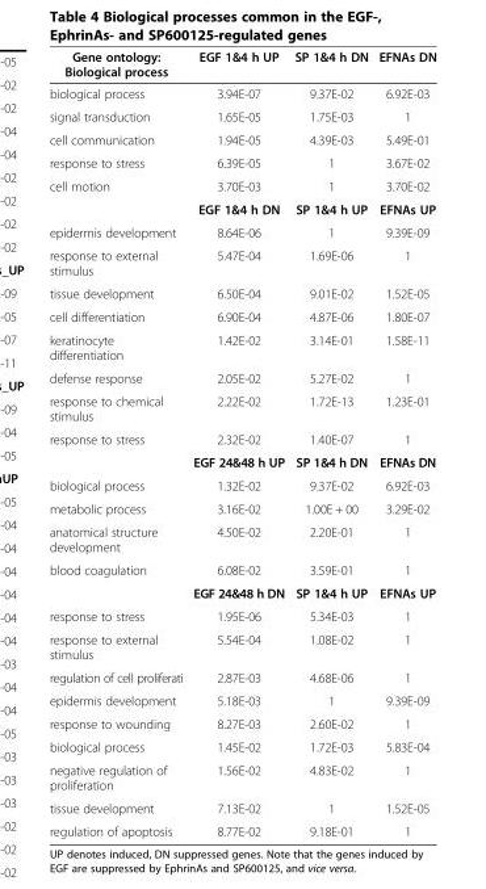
<table><thead><tr><td>Gene ontology: Biological process</td><td>EGF 1&amp;4 h UP</td><td>SP 1&amp;4 h DN</td><td>EFNAs DN</td></tr></thead><tbody><tr><td>biological process</td><td>3.94E-07</td><td>9.37E-02</td><td>6.92E-03</td></tr><tr><td>signal transduction</td><td>1.65E-05</td><td>1.75E-03</td><td>1</td></tr><tr><td>cell communication</td><td>1.94E-05</td><td>4.39E-03</td><td>5.49E-01</td></tr><tr><td>response to stress</td><td>6.39E-05</td><td>1</td><td>3.67E-02</td></tr><tr><td rowspan="2">cell motion</td><td>3.70E-03</td><td>1</td><td>3.70E-02</td></tr><tr><td>EGF 1&amp;4 h DN</td><td>SP 1&amp;4 h UP</td><td>EFNAs UP</td></tr><tr><td>epidermis development</td><td>8.64E-06</td><td>1</td><td>9.39E-09</td></tr><tr><td>response to external stimulus</td><td>5.47E-04</td><td>1.69E-06</td><td>1</td></tr><tr><td>tissue development</td><td>6.50E-04</td><td>9.01E-02</td><td>1.52E-05</td></tr><tr><td>cell differentiation</td><td>6.90E-04</td><td>4.87E-06</td><td>1.80E-07</td></tr><tr><td>keratinocyte differentiation</td><td>1.42E-02</td><td>3.14E-01</td><td>1.58E-11</td></tr><tr><td>defense response</td><td>2.05E-02</td><td>5.27E-02</td><td>1</td></tr><tr><td>response to chemical stimulus</td><td>2.22E-02</td><td>1.72E-13</td><td>1.23E-01</td></tr><tr><td rowspan="2">response to stress</td><td>2.32E-02</td><td>1.40E-07</td><td>1</td></tr><tr><td>EGF 24&amp;48 h UP</td><td>SP 1&amp;4 h DN</td><td>EFNAs DN</td></tr><tr><td>biological process</td><td>1.32E-02</td><td>9.37E-02</td><td>6.92E-03</td></tr><tr><td>metabolic process</td><td>3.16E-02</td><td>1.00E + 00</td><td>3.29E-02</td></tr><tr><td>anatomical structure development</td><td>4.50E-02</td><td>2.20E-01</td><td>1</td></tr><tr><td rowspan="2">blood coagulation</td><td>6.08E-02</td><td>3.59E-01</td><td>1</td></tr><tr><td>EGF 24&amp;48 h DN</td><td>SP 1&amp;4 h UP</td><td>EFNAs UP</td></tr><tr><td>response to stress</td><td>1.95E-06</td><td>5.34E-03</td><td>1</td></tr><tr><td>response to external stimulus</td><td>5.54E-04</td><td>1.08E-02</td><td>1</td></tr><tr><td>regulation of cell proliferati</td><td>2.87E-03</td><td>4.68E-06</td><td>1</td></tr><tr><td>epidermis development</td><td>5.18E-03</td><td>1</td><td>9.39E-09</td></tr><tr><td>response to wounding</td><td>8.27E-03</td><td>2.60E-02</td><td>1</td></tr><tr><td>biological process</td><td>1.45E-02</td><td>1.72E-03</td><td>5.83E-04</td></tr><tr><td>negative regulation of proliferation</td><td>1.56E-02</td><td>4.83E-02</td><td>1</td></tr><tr><td>tissue development</td><td>7.13E-02</td><td>1</td><td>1.52E-05</td></tr><tr><td>regulation of apoptosis</td><td>8.77E-02</td><td>9.18E-01</td><td>1</td></tr></tbody></table>